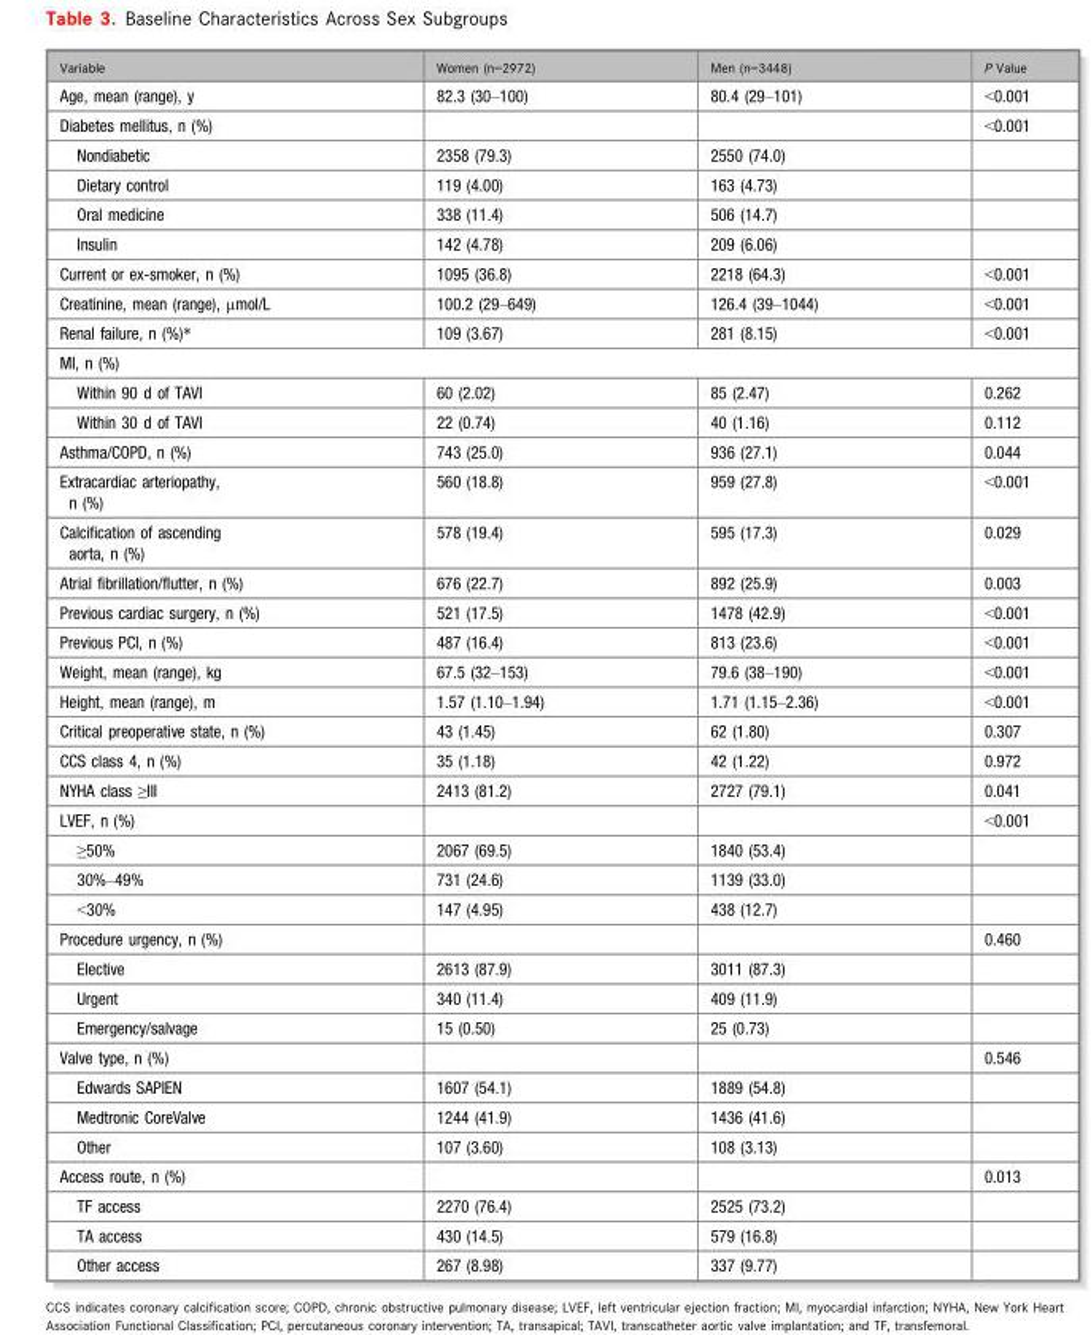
<table><thead><tr><td>Variable</td><td>Women (n=2972)</td><td>Men (n=3448)</td><td>P Value</td></tr></thead><tbody><tr><td>Age, mean (range), y</td><td>82.3 (30–100)</td><td>80.4 (29–101)</td><td>&lt;0.001</td></tr><tr><td>Diabetes mellitus, n (%)</td><td></td><td></td><td>&lt;0.001</td></tr><tr><td>Nondiabetic</td><td>2358 (79.3)</td><td>2550 (74.0)</td><td></td></tr><tr><td>Dietary control</td><td>119 (4.00)</td><td>163 (4.73)</td><td></td></tr><tr><td>Oral medicine</td><td>338 (11.4)</td><td>506 (14.7)</td><td></td></tr><tr><td>Insulin</td><td>142 (4.78)</td><td>209 (6.06)</td><td></td></tr><tr><td>Current or ex-smoker, n (%)</td><td>1095 (36.8)</td><td>2218 (64.3)</td><td>&lt;0.001</td></tr><tr><td>Creatinine, mean (range), μmol/L</td><td>100.2 (29–649)</td><td>126.4 (39–1044)</td><td>&lt;0.001</td></tr><tr><td>Renal failure, n (%)*</td><td>109 (3.67)</td><td>281 (8.15)</td><td>&lt;0.001</td></tr><tr><td colspan="4">MI, n (%)</td></tr><tr><td>Within 90 d of TAVI</td><td>60 (2.02)</td><td>85 (2.47)</td><td>0.262</td></tr><tr><td>Within 30 d of TAVI</td><td>22 (0.74)</td><td>40 (1.16)</td><td>0.112</td></tr><tr><td>Asthma/COPD, n (%)</td><td>743 (25.0)</td><td>936 (27.1)</td><td>0.044</td></tr><tr><td>Extracardiac arteriopathy, n (%)</td><td>560 (18.8)</td><td>959 (27.8)</td><td>&lt;0.001</td></tr><tr><td>Calcification of ascending aorta, n (%)</td><td>578 (19.4)</td><td>595 (17.3)</td><td>0.029</td></tr><tr><td>Atrial fibrillation/flutter, n (%)</td><td>676 (22.7)</td><td>892 (25.9)</td><td>0.003</td></tr><tr><td>Previous cardiac surgery, n (%)</td><td>521 (17.5)</td><td>1478 (42.9)</td><td>&lt;0.001</td></tr><tr><td>Previous PCI, n (%)</td><td>487 (16.4)</td><td>813 (23.6)</td><td>&lt;0.001</td></tr><tr><td>Weight, mean (range), kg</td><td>67.5 (32–153)</td><td>79.6 (38–190)</td><td>&lt;0.001</td></tr><tr><td>Height, mean (range), m</td><td>1.57 (1.10–1.94)</td><td>1.71 (1.15–2.36)</td><td>&lt;0.001</td></tr><tr><td>Critical preoperative state, n (%)</td><td>43 (1.45)</td><td>62 (1.80)</td><td>0.307</td></tr><tr><td>CCS class 4, n (%)</td><td>35 (1.18)</td><td>42 (1.22)</td><td>0.972</td></tr><tr><td>NYHA class ≥III</td><td>2413 (81.2)</td><td>2727 (79.1)</td><td>0.041</td></tr><tr><td>LVEF, n (%)</td><td></td><td></td><td>&lt;0.001</td></tr><tr><td>≥50%</td><td>2067 (69.5)</td><td>1840 (53.4)</td><td></td></tr><tr><td>30%–49%</td><td>731 (24.6)</td><td>1139 (33.0)</td><td></td></tr><tr><td>&lt;30%</td><td>147 (4.95)</td><td>438 (12.7)</td><td></td></tr><tr><td>Procedure urgency, n (%)</td><td></td><td></td><td>0.460</td></tr><tr><td>Elective</td><td>2613 (87.9)</td><td>3011 (87.3)</td><td></td></tr><tr><td>Urgent</td><td>340 (11.4)</td><td>409 (11.9)</td><td></td></tr><tr><td>Emergency/salvage</td><td>15 (0.50)</td><td>25 (0.73)</td><td></td></tr><tr><td>Valve type, n (%)</td><td></td><td></td><td>0.546</td></tr><tr><td>Edwards SAPIEN</td><td>1607 (54.1)</td><td>1889 (54.8)</td><td></td></tr><tr><td>Medtronic CoreValve</td><td>1244 (41.9)</td><td>1436 (41.6)</td><td></td></tr><tr><td>Other</td><td>107 (3.60)</td><td>108 (3.13)</td><td></td></tr><tr><td>Access route, n (%)</td><td></td><td></td><td>0.013</td></tr><tr><td>TF access</td><td>2270 (76.4)</td><td>2525 (73.2)</td><td></td></tr><tr><td>TA access</td><td>430 (14.5)</td><td>579 (16.8)</td><td></td></tr><tr><td>Other access</td><td>267 (8.98)</td><td>337 (9.77)</td><td></td></tr></tbody></table>